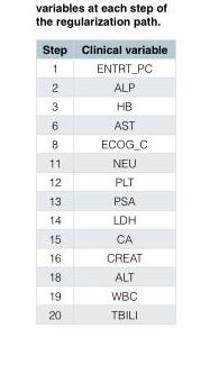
<table><thead><tr><td>Step</td><td>Clinical variable</td></tr></thead><tbody><tr><td>1</td><td>ENTRT_PC</td></tr><tr><td>2</td><td>ALP</td></tr><tr><td>3</td><td>HB</td></tr><tr><td>6</td><td>AST</td></tr><tr><td>8</td><td>ECOG_C</td></tr><tr><td>11</td><td>NEU</td></tr><tr><td>12</td><td>PLT</td></tr><tr><td>13</td><td>PSA</td></tr><tr><td>14</td><td>LDH</td></tr><tr><td>15</td><td>CA</td></tr><tr><td>16</td><td>CREAT</td></tr><tr><td>18</td><td>ALT</td></tr><tr><td>19</td><td>WBC</td></tr><tr><td>20</td><td>TBILI</td></tr></tbody></table>